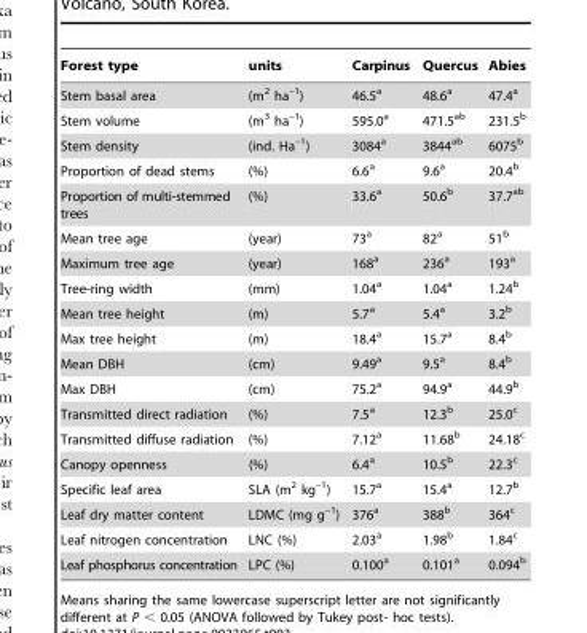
<table><thead><tr><td>Forest type</td><td>units</td><td>Carpinus</td><td>Quercus</td><td>Abies</td></tr></thead><tbody><tr><td>Stem basal area</td><td>(m<sup>2</sup> ha<sup>–1</sup>)</td><td>46.5<sup>a</sup></td><td>48.6<sup>a</sup></td><td>47.4<sup>a</sup></td></tr><tr><td>Stem volume</td><td>(m<sup>3</sup> ha<sup>–1</sup>)</td><td>595.0<sup>a</sup></td><td>471.5<sup>ab</sup></td><td>231.5<sup>b</sup></td></tr><tr><td>Stem density</td><td>(ind. Ha<sup>–1</sup>)</td><td>3084<sup>a</sup></td><td>3844<sup>ab</sup></td><td>6075<sup>b</sup></td></tr><tr><td>Proportion of dead stems</td><td>(%)</td><td>6.6<sup>a</sup></td><td>9.6<sup>a</sup></td><td>20.4<sup>b</sup></td></tr><tr><td>Proportion of multi-stemmed trees</td><td>(%)</td><td>33.6<sup>a</sup></td><td>50.6<sup>b</sup></td><td>37.7<sup>ab</sup></td></tr><tr><td>Mean tree age</td><td>(year)</td><td>73<sup>a</sup></td><td>82<sup>a</sup></td><td>51<sup>b</sup></td></tr><tr><td>Maximum tree age</td><td>(year)</td><td>168<sup>a</sup></td><td>236<sup>a</sup></td><td>193<sup>a</sup></td></tr><tr><td>Tree-ring width</td><td>(mm)</td><td>1.04<sup>a</sup></td><td>1.04<sup>a</sup></td><td>1.24<sup>b</sup></td></tr><tr><td>Mean tree height</td><td>(m)</td><td>5.7<sup>a</sup></td><td>5.4<sup>a</sup></td><td>3.2<sup>b</sup></td></tr><tr><td>Max tree height</td><td>(m)</td><td>18.4<sup>a</sup></td><td>15.7<sup>a</sup></td><td>8.4<sup>b</sup></td></tr><tr><td>Mean DBH</td><td>(cm)</td><td>9.49<sup>a</sup></td><td>9.5<sup>a</sup></td><td>8.4<sup>b</sup></td></tr><tr><td>Max DBH</td><td>(cm)</td><td>75.2<sup>a</sup></td><td>94.9<sup>a</sup></td><td>44.9<sup>b</sup></td></tr><tr><td>Transmitted direct radiation</td><td>(%)</td><td>7.5<sup>a</sup></td><td>12.3<sup>b</sup></td><td>25.0<sup>c</sup></td></tr><tr><td>Transmitted diffuse radiation</td><td>(%)</td><td>7.12<sup>a</sup></td><td>11.68<sup>b</sup></td><td>24.18<sup>c</sup></td></tr><tr><td>Canopy openness</td><td>(%)</td><td>6.4<sup>a</sup></td><td>10.5<sup>b</sup></td><td>22.3<sup>c</sup></td></tr><tr><td>Specific leaf area</td><td>SLA (m<sup>2</sup> kg<sup>–1</sup>)</td><td>15.7<sup>a</sup></td><td>15.4<sup>a</sup></td><td>12.7<sup>b</sup></td></tr><tr><td>Leaf dry matter content</td><td>LDMC (mg g<sup>–1</sup>)</td><td>376<sup>a</sup></td><td>388<sup>b</sup></td><td>364<sup>c</sup></td></tr><tr><td>Leaf nitrogen concentration</td><td>LNC (%)</td><td>2.03<sup>a</sup></td><td>1.98<sup>b</sup></td><td>1.84<sup>c</sup></td></tr><tr><td>Leaf phosphorus concentration</td><td>LPC (%)</td><td>0.100<sup>a</sup></td><td>0.101<sup>a</sup></td><td>0.094<sup>b</sup></td></tr></tbody></table>